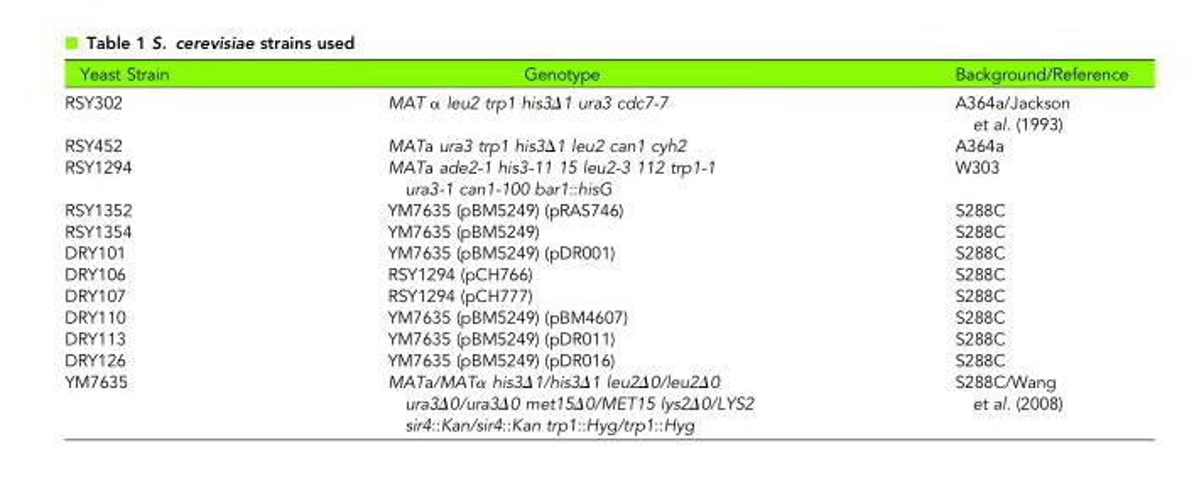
<table><thead><tr><td>Yeast Strain</td><td>Genotype</td><td>Background/Reference</td></tr></thead><tbody><tr><td>RSY302</td><td>MAT α leu2 trp1 his3Δ1 ura3 cdc7-7</td><td>A364a/Jackson et al. (1993)</td></tr><tr><td>RSY452</td><td>MATa ura3 trp1 his3Δ1 leu2 can1 cyh2</td><td>A364a</td></tr><tr><td>RSY1294</td><td>MATa ade2-1 his3-11 15 leu2-3 112 trp1-1 ura3-1 can1-100 bar1::hisG</td><td>W303</td></tr><tr><td>RSY1352</td><td>YM7635 (pBM5249) (pRAS746)</td><td>S288C</td></tr><tr><td>RSY1354</td><td>YM7635 (pBM5249)</td><td>S288C</td></tr><tr><td>DRY101</td><td>YM7635 (pBM5249) (pDR001)</td><td>S288C</td></tr><tr><td>DRY106</td><td>RSY1294 (pCH766)</td><td>S288C</td></tr><tr><td>DRY107</td><td>RSY1294 (pCH777)</td><td>S288C</td></tr><tr><td>DRY110</td><td>YM7635 (pBM5249) (pBM4607)</td><td>S288C</td></tr><tr><td>DRY113</td><td>YM7635 (pBM5249) (pDR011)</td><td>S288C</td></tr><tr><td>DRY126</td><td>YM7635 (pBM5249) (pDR016)</td><td>S288C</td></tr><tr><td>YM7635</td><td>MATa/MATα his3Δ1/his3Δ1 leu2Δ0/leu2Δ0 ura3Δ0/ura3Δ0 met15Δ0/MET15 lys2Δ0/LYS2 sir4::Kan/sir4::Kan trp1::Hyg/trp1::Hyg</td><td>S288C/Wang et al. (2008)</td></tr></tbody></table>